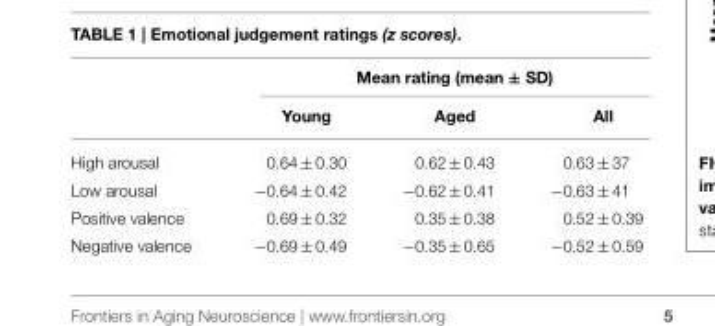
<table><thead><tr><td rowspan="2"></td><td colspan="3">Mean rating (mean ± SD)</td></tr><tr><td>Young</td><td>Aged</td><td>All</td></tr></thead><tbody><tr><td>High arousal</td><td>0.64 ± 0.30</td><td>0.62 ± 0.43</td><td>0.63 ± 37</td></tr><tr><td>Low arousal</td><td>−0.64 ± 0.42</td><td>−0.62 ± 0.41</td><td>−0.63 ± 41</td></tr><tr><td>Positive valence</td><td>0.69 ± 0.32</td><td>0.35 ± 0.38</td><td>0.52 ± 0.39</td></tr><tr><td>Negative valence</td><td>−0.69 ± 0.49</td><td>−0.35 ± 0.65</td><td>−0.52 ± 0.59</td></tr></tbody></table>